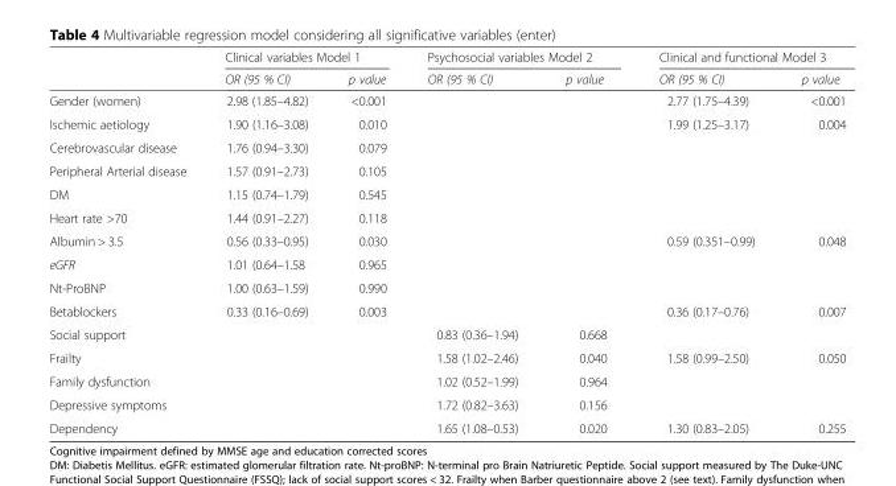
<table><thead><tr><td rowspan="2"></td><td colspan="2">Clinical variables Model 1</td><td colspan="2">Psychosocial variables Model 2</td><td colspan="2">Clinical and functional Model 3</td></tr><tr><td>OR (95 % CI)</td><td>p value</td><td>OR (95 % CI)</td><td>p value</td><td>OR (95 % CI)</td><td>p value</td></tr></thead><tbody><tr><td>Gender (women)</td><td>2.98 (1.85–4.82)</td><td>&lt;0.001</td><td></td><td></td><td>2.77 (1.75–4.39)</td><td>&lt;0.001</td></tr><tr><td>Ischemic aetiology</td><td>1.90 (1.16–3.08)</td><td>0.010</td><td></td><td></td><td>1.99 (1.25–3.17)</td><td>0.004</td></tr><tr><td>Cerebrovascular disease</td><td>1.76 (0.94–3.30)</td><td>0.079</td><td></td><td></td><td></td><td></td></tr><tr><td>Peripheral Arterial disease</td><td>1.57 (0.91–2.73)</td><td>0.105</td><td></td><td></td><td></td><td></td></tr><tr><td>DM</td><td>1.15 (0.74–1.79)</td><td>0.545</td><td></td><td></td><td></td><td></td></tr><tr><td>Heart rate &gt;70</td><td>1.44 (0.91–2.27)</td><td>0.118</td><td></td><td></td><td></td><td></td></tr><tr><td>Albumin &gt; 3.5</td><td>0.56 (0.33–0.95)</td><td>0.030</td><td></td><td></td><td>0.59 (0.351–0.99)</td><td>0.048</td></tr><tr><td>eGFR</td><td>1.01 (0.64–1.58</td><td>0.965</td><td></td><td></td><td></td><td></td></tr><tr><td>Nt-ProBNP</td><td>1.00 (0.63–1.59)</td><td>0.990</td><td></td><td></td><td></td><td></td></tr><tr><td>Betablockers</td><td>0.33 (0.16–0.69)</td><td>0.003</td><td></td><td></td><td>0.36 (0.17–0.76)</td><td>0.007</td></tr><tr><td>Social support</td><td></td><td></td><td>0.83 (0.36–1.94)</td><td>0.668</td><td></td><td></td></tr><tr><td>Frailty</td><td></td><td></td><td>1.58 (1.02–2.46)</td><td>0.040</td><td>1.58 (0.99–2.50)</td><td>0.050</td></tr><tr><td>Family dysfunction</td><td></td><td></td><td>1.02 (0.52–1.99)</td><td>0.964</td><td></td><td></td></tr><tr><td>Depressive symptoms</td><td></td><td></td><td>1.72 (0.82–3.63)</td><td>0.156</td><td></td><td></td></tr><tr><td>Dependency</td><td></td><td></td><td>1.65 (1.08–0.53)</td><td>0.020</td><td>1.30 (0.83–2.05)</td><td>0.255</td></tr></tbody></table>